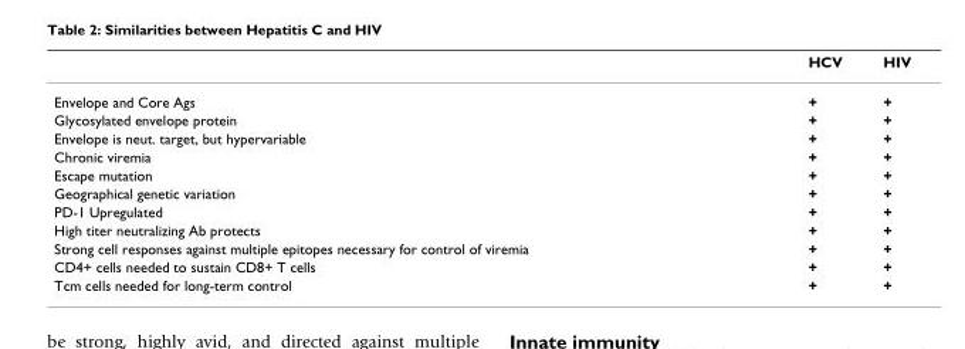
<table><thead><tr><td></td><td>HCV</td><td>HIV</td></tr></thead><tbody><tr><td>Envelope and Core Ags</td><td>+</td><td>+</td></tr><tr><td>Glycosylated envelope protein</td><td>+</td><td>+</td></tr><tr><td>Envelope is neut. target, but hypervariable</td><td>+</td><td>+</td></tr><tr><td>Chronic viremia</td><td>+</td><td>+</td></tr><tr><td>Escape mutation</td><td>+</td><td>+</td></tr><tr><td>Geographical genetic variation</td><td>+</td><td>+</td></tr><tr><td>PD-1 Upregulated</td><td>+</td><td>+</td></tr><tr><td>High titer neutralizing Ab protects</td><td>+</td><td>+</td></tr><tr><td>Strong cell responses against multiple epitopes necessary for control of viremia</td><td>+</td><td>+</td></tr><tr><td>CD4+ cells needed to sustain CD8+ T cells</td><td>+</td><td>+</td></tr><tr><td>Tcm cells needed for long-term control</td><td>+</td><td>+</td></tr></tbody></table>